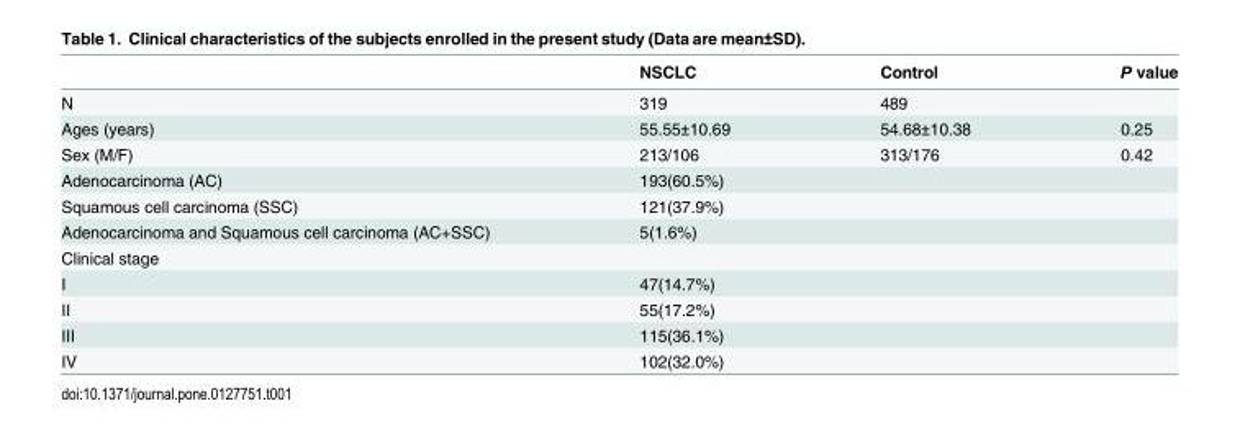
<table><thead><tr><td></td><td>NSCLC</td><td>Control</td><td>P value</td></tr></thead><tbody><tr><td>N</td><td>319</td><td>489</td><td></td></tr><tr><td>Ages (years)</td><td>55.55±10.69</td><td>54.68±10.38</td><td>0.25</td></tr><tr><td>Sex (M/F)</td><td>213/106</td><td>313/176</td><td>0.42</td></tr><tr><td>Adenocarcinoma (AC)</td><td>193(60.5%)</td><td></td><td></td></tr><tr><td>Squamous cell carcinoma (SSC)</td><td>121(37.9%)</td><td></td><td></td></tr><tr><td>Adenocarcinoma and Squamous cell carcinoma (AC+SSC)</td><td>5(1.6%)</td><td></td><td></td></tr><tr><td colspan="4">Clinical stage</td></tr><tr><td>I</td><td>47(14.7%)</td><td></td><td></td></tr><tr><td>II</td><td>55(17.2%)</td><td></td><td></td></tr><tr><td>III</td><td>115(36.1%)</td><td></td><td></td></tr><tr><td>IV</td><td>102(32.0%)</td><td></td><td></td></tr></tbody></table>